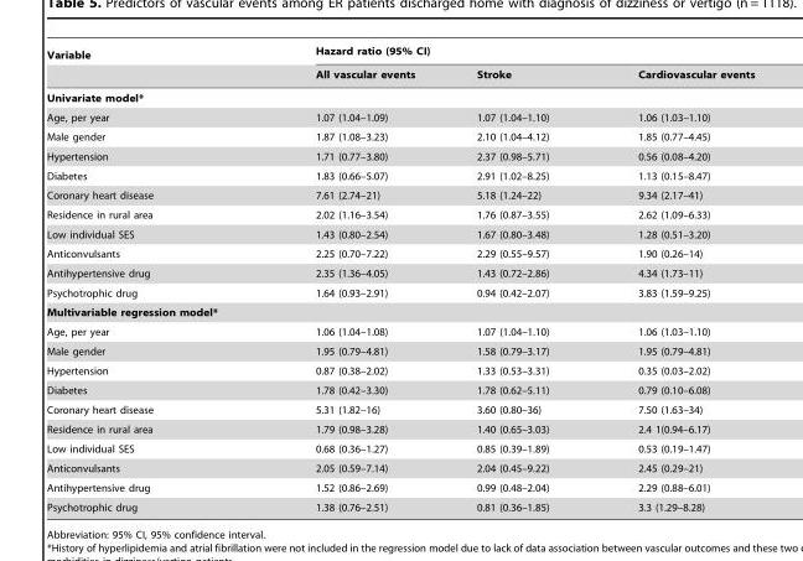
<table><thead><tr><td rowspan="2">Variable</td><td colspan="3">Hazard ratio (95% CI)</td></tr><tr><td>All vascular events</td><td>Stroke</td><td>Cardiovascular events</td></tr></thead><tbody><tr><td colspan="4">Univariate model*</td></tr><tr><td>Age, per year</td><td>1.07 (1.04–1.09)</td><td>1.07 (1.04–1.10)</td><td>1.06 (1.03–1.10)</td></tr><tr><td>Male gender</td><td>1.87 (1.08–3.23)</td><td>2.10 (1.04–4.12)</td><td>1.85 (0.77–4.45)</td></tr><tr><td>Hypertension</td><td>1.71 (0.77–3.80)</td><td>2.37 (0.98–5.71)</td><td>0.56 (0.08–4.20)</td></tr><tr><td>Diabetes</td><td>1.83 (0.66–5.07)</td><td>2.91 (1.02–8.25)</td><td>1.13 (0.15–8.47)</td></tr><tr><td>Coronary heart disease</td><td>7.61 (2.74–21)</td><td>5.18 (1.24–22)</td><td>9.34 (2.17–41)</td></tr><tr><td>Residence in rural area</td><td>2.02 (1.16–3.54)</td><td>1.76 (0.87–3.55)</td><td>2.62 (1.09–6.33)</td></tr><tr><td>Low individual SES</td><td>1.43 (0.80–2.54)</td><td>1.67 (0.80–3.48)</td><td>1.28 (0.51–3.20)</td></tr><tr><td>Anticonvulsants</td><td>2.25 (0.70–7.22)</td><td>2.29 (0.55–9.57)</td><td>1.90 (0.26–14)</td></tr><tr><td>Antihypertensive drug</td><td>2.35 (1.36–4.05)</td><td>1.43 (0.72–2.86)</td><td>4.34 (1.73–11)</td></tr><tr><td>Psychotrophic drug</td><td>1.64 (0.93–2.91)</td><td>0.94 (0.42–2.07)</td><td>3.83 (1.59–9.25)</td></tr><tr><td colspan="4">Multivariable regression model*</td></tr><tr><td>Age, per year</td><td>1.06 (1.04–1.08)</td><td>1.07 (1.04–1.10)</td><td>1.06 (1.03–1.10)</td></tr><tr><td>Male gender</td><td>1.95 (0.79–4.81)</td><td>1.58 (0.79–3.17)</td><td>1.95 (0.79–4.81)</td></tr><tr><td>Hypertension</td><td>0.87 (0.38–2.02)</td><td>1.33 (0.53–3.31)</td><td>0.35 (0.03–2.02)</td></tr><tr><td>Diabetes</td><td>1.78 (0.42–3.30)</td><td>1.78 (0.62–5.11)</td><td>0.79 (0.10–6.08)</td></tr><tr><td>Coronary heart disease</td><td>5.31 (1.82–16)</td><td>3.60 (0.80–36)</td><td>7.50 (1.63–34)</td></tr><tr><td>Residence in rural area</td><td>1.79 (0.98–3.28)</td><td>1.40 (0.65–3.03)</td><td>2.4 1(0.94–6.17)</td></tr><tr><td>Low individual SES</td><td>0.68 (0.36–1.27)</td><td>0.85 (0.39–1.89)</td><td>0.53 (0.19–1.47)</td></tr><tr><td>Anticonvulsants</td><td>2.05 (0.59–7.14)</td><td>2.04 (0.45–9.22)</td><td>2.45 (0.29–21)</td></tr><tr><td>Antihypertensive drug</td><td>1.52 (0.86–2.69)</td><td>0.99 (0.48–2.04)</td><td>2.29 (0.88–6.01)</td></tr><tr><td>Psychotrophic drug</td><td>1.38 (0.76–2.51)</td><td>0.81 (0.36–1.85)</td><td>3.3 (1.29–8.28)</td></tr></tbody></table>